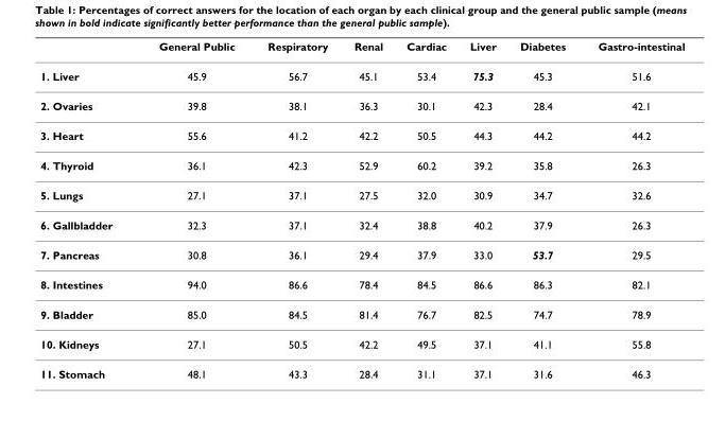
<table><thead><tr><td></td><td>General Public</td><td>Respiratory</td><td>Renal</td><td>Cardiac</td><td>Liver</td><td>Diabetes</td><td>Gastro-intestinal</td></tr></thead><tbody><tr><td>1. Liver</td><td>45.9</td><td>56.7</td><td>45.1</td><td>53.4</td><td>75.3</td><td>45.3</td><td>51.6</td></tr><tr><td>2. Ovaries</td><td>39.8</td><td>38.1</td><td>36.3</td><td>30.1</td><td>42.3</td><td>28.4</td><td>42.1</td></tr><tr><td>3. Heart</td><td>55.6</td><td>41.2</td><td>42.2</td><td>50.5</td><td>44.3</td><td>44.2</td><td>44.2</td></tr><tr><td>4. Thyroid</td><td>36.1</td><td>42.3</td><td>52.9</td><td>60.2</td><td>39.2</td><td>35.8</td><td>26.3</td></tr><tr><td>5. Lungs</td><td>27.1</td><td>37.1</td><td>27.5</td><td>32.0</td><td>30.9</td><td>34.7</td><td>32.6</td></tr><tr><td>6. Gallbladder</td><td>32.3</td><td>37.1</td><td>32.4</td><td>38.8</td><td>40.2</td><td>37.9</td><td>26.3</td></tr><tr><td>7. Pancreas</td><td>30.8</td><td>36.1</td><td>29.4</td><td>37.9</td><td>33.0</td><td>53.7</td><td>29.5</td></tr><tr><td>8. Intestines</td><td>94.0</td><td>86.6</td><td>78.4</td><td>84.5</td><td>86.6</td><td>86.3</td><td>82.1</td></tr><tr><td>9. Bladder</td><td>85.0</td><td>84.5</td><td>81.4</td><td>76.7</td><td>82.5</td><td>74.7</td><td>78.9</td></tr><tr><td>10. Kidneys</td><td>27.1</td><td>50.5</td><td>42.2</td><td>49.5</td><td>37.1</td><td>41.1</td><td>55.8</td></tr><tr><td>11. Stomach</td><td>48.1</td><td>43.3</td><td>28.4</td><td>31.1</td><td>37.1</td><td>31.6</td><td>46.3</td></tr></tbody></table>